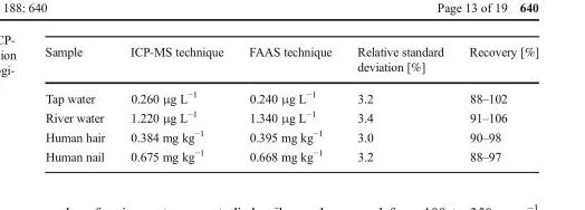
<table><thead><tr><td>Sample</td><td>ICP-MS technique</td><td>FAAS technique</td><td>Relative standard deviation [%]</td><td>Recovery [%]</td></tr></thead><tbody><tr><td>Tap water</td><td>0.260 μg L<sup>−1</sup></td><td>0.240 μg L<sup>−1</sup></td><td>3.2</td><td>88–102</td></tr><tr><td>River water</td><td>1.220 μg L<sup>−1</sup></td><td>1.340 μg L<sup>−1</sup></td><td>3.4</td><td>91–106</td></tr><tr><td>Human hair</td><td>0.384 mg kg<sup>−1</sup></td><td>0.395 mg kg<sup>−1</sup></td><td>3.0</td><td>90–98</td></tr><tr><td>Human nail</td><td>0.675 mg kg<sup>−1</sup></td><td>0.668 mg kg<sup>−1</sup></td><td>3.2</td><td>88–97</td></tr></tbody></table>